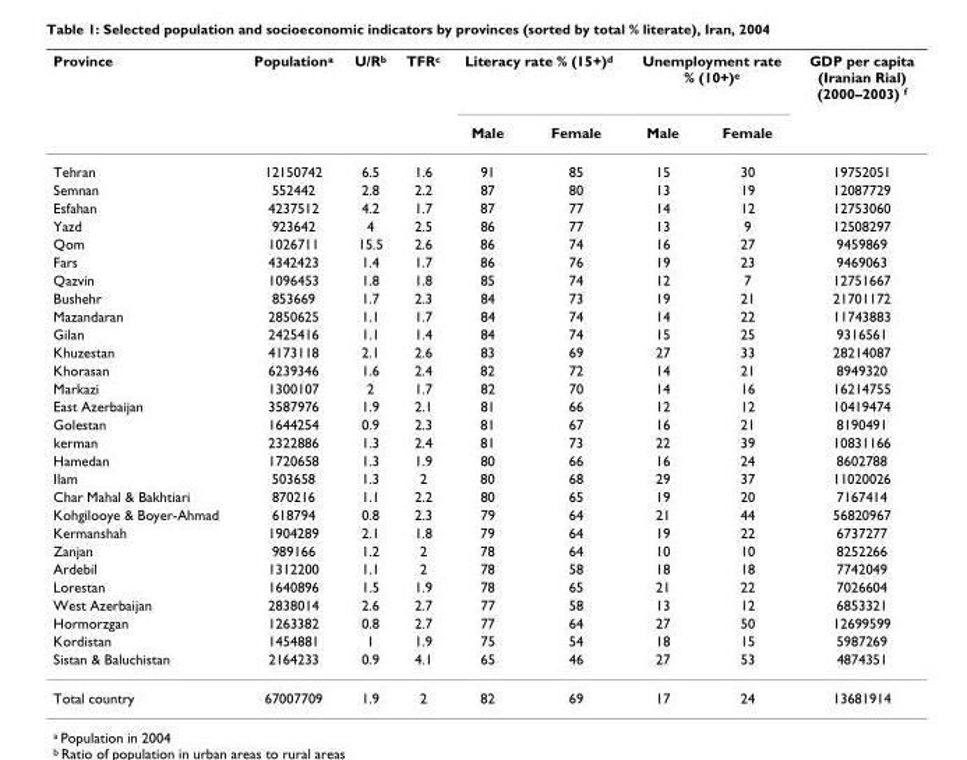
<table><thead><tr><td rowspan="2">Province</td><td rowspan="2">Population<sup>a</sup></td><td rowspan="2">U/R<sup>b</sup></td><td rowspan="2">TFR<sup>c</sup></td><td colspan="2">Literacy rate % (15+)<sup>d</sup></td><td colspan="2">Unemployment rate % (10+)<sup>e</sup></td><td rowspan="2">GDP per capita (Iranian Rial) (2000–2003) <sup>f</sup></td></tr><tr><td>Male</td><td>Female</td><td>Male</td><td>Female</td></tr></thead><tbody><tr><td>Tehran</td><td>12150742</td><td>6.5</td><td>1.6</td><td>91</td><td>85</td><td>15</td><td>30</td><td>19752051</td></tr><tr><td>Semnan</td><td>552442</td><td>2.8</td><td>2.2</td><td>87</td><td>80</td><td>13</td><td>19</td><td>12087729</td></tr><tr><td>Esfahan</td><td>4237512</td><td>4.2</td><td>1.7</td><td>87</td><td>77</td><td>14</td><td>12</td><td>12753060</td></tr><tr><td>Yazd</td><td>923642</td><td>4</td><td>2.5</td><td>86</td><td>77</td><td>13</td><td>9</td><td>12508297</td></tr><tr><td>Qom</td><td>1026711</td><td>15.5</td><td>2.6</td><td>86</td><td>74</td><td>16</td><td>27</td><td>9459869</td></tr><tr><td>Fars</td><td>4342423</td><td>1.4</td><td>1.7</td><td>86</td><td>76</td><td>19</td><td>23</td><td>9469063</td></tr><tr><td>Qazvin</td><td>1096453</td><td>1.8</td><td>1.8</td><td>85</td><td>74</td><td>12</td><td>7</td><td>12751667</td></tr><tr><td>Bushehr</td><td>853669</td><td>1.7</td><td>2.3</td><td>84</td><td>73</td><td>19</td><td>21</td><td>21701172</td></tr><tr><td>Mazandaran</td><td>2850625</td><td>1.1</td><td>1.7</td><td>84</td><td>74</td><td>14</td><td>22</td><td>11743883</td></tr><tr><td>Gilan</td><td>2425416</td><td>1.1</td><td>1.4</td><td>84</td><td>74</td><td>15</td><td>25</td><td>9316561</td></tr><tr><td>Khuzestan</td><td>4173118</td><td>2.1</td><td>2.6</td><td>83</td><td>69</td><td>27</td><td>33</td><td>28214087</td></tr><tr><td>Khorasan</td><td>6239346</td><td>1.6</td><td>2.4</td><td>82</td><td>72</td><td>14</td><td>21</td><td>8949320</td></tr><tr><td>Markazi</td><td>1300107</td><td>2</td><td>1.7</td><td>82</td><td>70</td><td>14</td><td>16</td><td>16214755</td></tr><tr><td>East Azerbaijan</td><td>3587976</td><td>1.9</td><td>2.1</td><td>81</td><td>66</td><td>12</td><td>12</td><td>10419474</td></tr><tr><td>Golestan</td><td>1644254</td><td>0.9</td><td>2.3</td><td>81</td><td>67</td><td>16</td><td>21</td><td>8190491</td></tr><tr><td>kerman</td><td>2322886</td><td>1.3</td><td>2.4</td><td>81</td><td>73</td><td>22</td><td>39</td><td>10831166</td></tr><tr><td>Hamedan</td><td>1720658</td><td>1.3</td><td>1.9</td><td>80</td><td>66</td><td>16</td><td>24</td><td>8602788</td></tr><tr><td>Ilam</td><td>503658</td><td>1.3</td><td>2</td><td>80</td><td>68</td><td>29</td><td>37</td><td>11020026</td></tr><tr><td>Char Mahal &amp; Bakhtiari</td><td>870216</td><td>1.1</td><td>2.2</td><td>80</td><td>65</td><td>19</td><td>20</td><td>7167414</td></tr><tr><td>Kohgilooye &amp; Boyer-Ahmad</td><td>618794</td><td>0.8</td><td>2.3</td><td>79</td><td>64</td><td>21</td><td>44</td><td>56820967</td></tr><tr><td>Kermanshah</td><td>1904289</td><td>2.1</td><td>1.8</td><td>79</td><td>64</td><td>19</td><td>22</td><td>6737277</td></tr><tr><td>Zanjan</td><td>989166</td><td>1.2</td><td>2</td><td>78</td><td>64</td><td>10</td><td>10</td><td>8252266</td></tr><tr><td>Ardebil</td><td>1312200</td><td>1.1</td><td>2</td><td>78</td><td>58</td><td>18</td><td>18</td><td>7742049</td></tr><tr><td>Lorestan</td><td>1640896</td><td>1.5</td><td>1.9</td><td>78</td><td>65</td><td>21</td><td>22</td><td>7026604</td></tr><tr><td>West Azerbaijan</td><td>2838014</td><td>2.6</td><td>2.7</td><td>77</td><td>58</td><td>13</td><td>12</td><td>6853321</td></tr><tr><td>Hormorzgan</td><td>1263382</td><td>0.8</td><td>2.7</td><td>77</td><td>64</td><td>27</td><td>50</td><td>12699599</td></tr><tr><td>Kordistan</td><td>1454881</td><td>1</td><td>1.9</td><td>75</td><td>54</td><td>18</td><td>15</td><td>5987269</td></tr><tr><td>Sistan &amp; Baluchistan</td><td>2164233</td><td>0.9</td><td>4.1</td><td>65</td><td>46</td><td>27</td><td>53</td><td>4874351</td></tr><tr><td>Total country</td><td>67007709</td><td>1.9</td><td>2</td><td>82</td><td>69</td><td>17</td><td>24</td><td>13681914</td></tr></tbody></table>